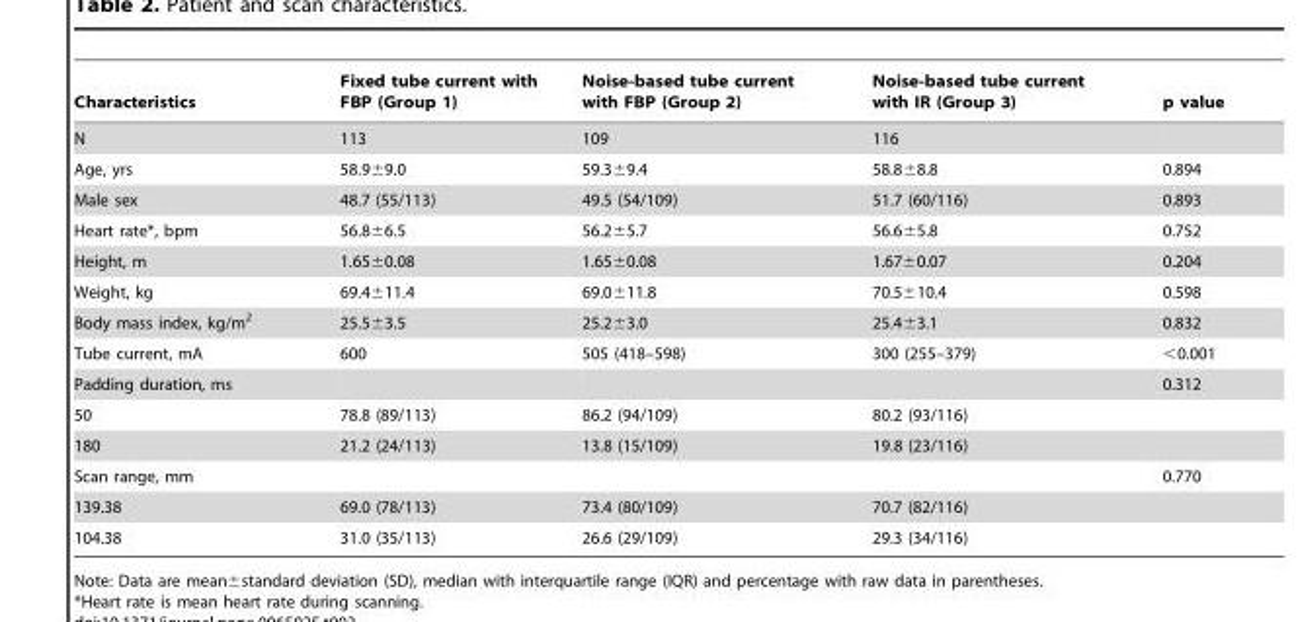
<table><thead><tr><td>Characteristics</td><td>Fixed tube current with FBP (Group 1)</td><td>Noise-based tube current with FBP (Group 2)</td><td>Noise-based tube current with IR (Group 3)</td><td>p value</td></tr></thead><tbody><tr><td>N</td><td>113</td><td>109</td><td>116</td><td></td></tr><tr><td>Age, yrs</td><td>58.9±9.0</td><td>59.3±9.4</td><td>58.8±8.8</td><td>0.894</td></tr><tr><td>Male sex</td><td>48.7 (55/113)</td><td>49.5 (54/109)</td><td>51.7 (60/116)</td><td>0.893</td></tr><tr><td>Heart rate*, bpm</td><td>56.8±6.5</td><td>56.2±5.7</td><td>56.6±5.8</td><td>0.752</td></tr><tr><td>Height, m</td><td>1.65±0.08</td><td>1.65±0.08</td><td>1.67±0.07</td><td>0.204</td></tr><tr><td>Weight, kg</td><td>69.4±11.4</td><td>69.0±11.8</td><td>70.5±10.4</td><td>0.598</td></tr><tr><td>Body mass index, kg/m<sup>2</sup></td><td>25.5±3.5</td><td>25.2±3.0</td><td>25.4±3.1</td><td>0.832</td></tr><tr><td>Tube current, mA</td><td>600</td><td>505 (418–598)</td><td>300 (255–379)</td><td>&lt;0.001</td></tr><tr><td>Padding duration, ms</td><td></td><td></td><td></td><td>0.312</td></tr><tr><td>50</td><td>78.8 (89/113)</td><td>86.2 (94/109)</td><td>80.2 (93/116)</td><td></td></tr><tr><td>180</td><td>21.2 (24/113)</td><td>13.8 (15/109)</td><td>19.8 (23/116)</td><td></td></tr><tr><td>Scan range, mm</td><td></td><td></td><td></td><td>0.770</td></tr><tr><td>139.38</td><td>69.0 (78/113)</td><td>73.4 (80/109)</td><td>70.7 (82/116)</td><td></td></tr><tr><td>104.38</td><td>31.0 (35/113)</td><td>26.6 (29/109)</td><td>29.3 (34/116)</td><td></td></tr></tbody></table>